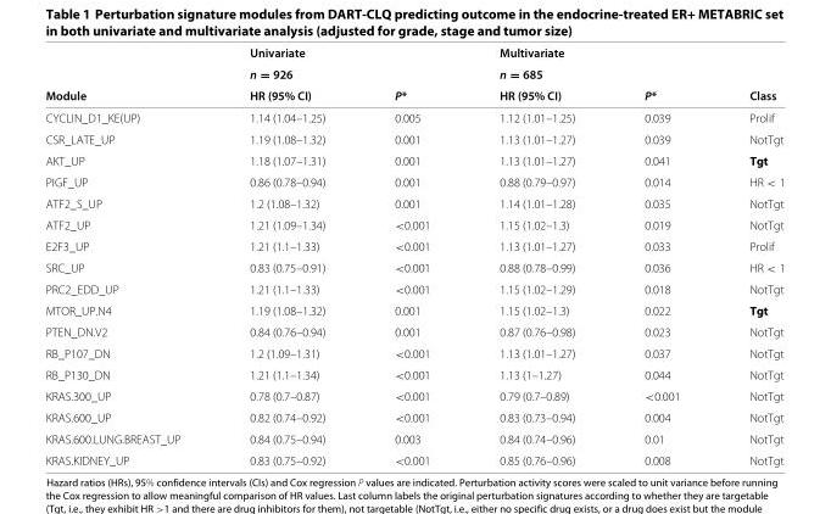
<table><thead><tr><td rowspan="3">Module</td><td rowspan="3">Univariate n = 926 HR (95% CI)</td><td rowspan="3">P*</td><td rowspan="3">Multivariate n = 685 HR (95% CI)</td><td rowspan="3">P*</td><td rowspan="3">Class</td></tr><tr></tr><tr></tr></thead><tbody><tr><td>CYCLIN_D1_KE(UP)</td><td>1.14 (1.04–1.25)</td><td>0.005</td><td>1.12 (1.01–1.25)</td><td>0.039</td><td>Prolif</td></tr><tr><td>CSR_LATE_UP</td><td>1.19 (1.08–1.32)</td><td>0.001</td><td>1.13 (1.01–1.27)</td><td>0.039</td><td>NotTgt</td></tr><tr><td>AKT_UP</td><td>1.18 (1.07–1.31)</td><td>0.001</td><td>1.13 (1.01–1.27)</td><td>0.041</td><td>Tgt</td></tr><tr><td>PIGF_UP</td><td>0.86 (0.78–0.94)</td><td>0.001</td><td>0.88 (0.79–0.97)</td><td>0.014</td><td>HR &lt; 1</td></tr><tr><td>ATF2_S_UP</td><td>1.2 (1.08–1.32)</td><td>0.001</td><td>1.14 (1.01–1.28)</td><td>0.035</td><td>NotTgt</td></tr><tr><td>ATF2_UP</td><td>1.21 (1.09–1.34)</td><td>&lt;0.001</td><td>1.15 (1.02–1.3)</td><td>0.019</td><td>NotTgt</td></tr><tr><td>E2F3_UP</td><td>1.21 (1.1–1.33)</td><td>&lt;0.001</td><td>1.13 (1.01–1.27)</td><td>0.033</td><td>Prolif</td></tr><tr><td>SRC_UP</td><td>0.83 (0.75–0.91)</td><td>&lt;0.001</td><td>0.88 (0.78–0.99)</td><td>0.036</td><td>HR &lt; 1</td></tr><tr><td>PRC2_EDD_UP</td><td>1.21 (1.1–1.33)</td><td>&lt;0.001</td><td>1.15 (1.02–1.29)</td><td>0.018</td><td>NotTgt</td></tr><tr><td>MTOR_UP.N4</td><td>1.19 (1.08–1.32)</td><td>0.001</td><td>1.15 (1.02–1.3)</td><td>0.022</td><td>Tgt</td></tr><tr><td>PTEN_DN.V2</td><td>0.84 (0.76–0.94)</td><td>0.001</td><td>0.87 (0.76–0.98)</td><td>0.023</td><td>NotTgt</td></tr><tr><td>RB_P107_DN</td><td>1.2 (1.09–1.31)</td><td>&lt;0.001</td><td>1.13 (1.01–1.27)</td><td>0.037</td><td>NotTgt</td></tr><tr><td>RB_P130_DN</td><td>1.21 (1.1–1.34)</td><td>&lt;0.001</td><td>1.13 (1–1.27)</td><td>0.044</td><td>NotTgt</td></tr><tr><td>KRAS.300_UP</td><td>0.78 (0.7–0.87)</td><td>&lt;0.001</td><td>0.79 (0.7–0.89)</td><td>&lt;0.001</td><td>NotTgt</td></tr><tr><td>KRAS.600_UP</td><td>0.82 (0.74–0.92)</td><td>&lt;0.001</td><td>0.83 (0.73–0.94)</td><td>0.004</td><td>NotTgt</td></tr><tr><td>KRAS.600.LUNG.BREAST_UP</td><td>0.84 (0.75–0.94)</td><td>0.003</td><td>0.84 (0.74–0.96)</td><td>0.01</td><td>NotTgt</td></tr><tr><td>KRAS.KIDNEY_UP</td><td>0.83 (0.75–0.92)</td><td>&lt;0.001</td><td>0.85 (0.76–0.96)</td><td>0.008</td><td>NotTgt</td></tr></tbody></table>